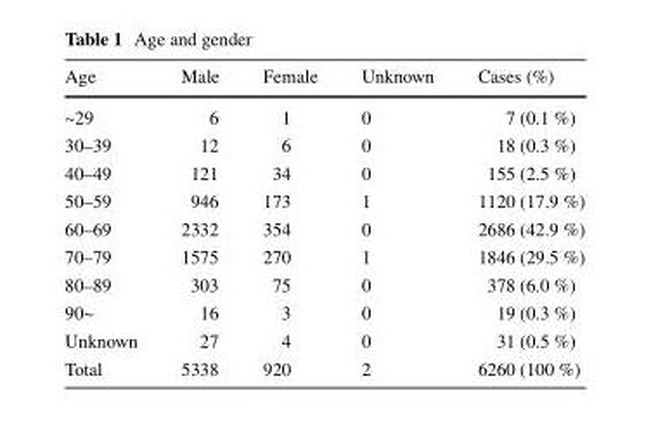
<table><thead><tr><td>Age</td><td>Male</td><td>Female</td><td>Unknown</td><td>Cases (%)</td></tr></thead><tbody><tr><td>~29</td><td>6</td><td>1</td><td>0</td><td>7 (0.1 %)</td></tr><tr><td>30–39</td><td>12</td><td>6</td><td>0</td><td>18 (0.3 %)</td></tr><tr><td>40–49</td><td>121</td><td>34</td><td>0</td><td>155 (2.5 %)</td></tr><tr><td>50–59</td><td>946</td><td>173</td><td>1</td><td>1120 (17.9 %)</td></tr><tr><td>60–69</td><td>2332</td><td>354</td><td>0</td><td>2686 (42.9 %)</td></tr><tr><td>70–79</td><td>1575</td><td>270</td><td>1</td><td>1846 (29.5 %)</td></tr><tr><td>80–89</td><td>303</td><td>75</td><td>0</td><td>378 (6.0 %)</td></tr><tr><td>90~</td><td>16</td><td>3</td><td>0</td><td>19 (0.3 %)</td></tr><tr><td>Unknown</td><td>27</td><td>4</td><td>0</td><td>31 (0.5 %)</td></tr><tr><td>Total</td><td>5338</td><td>920</td><td>2</td><td>6260 (100 %)</td></tr></tbody></table>